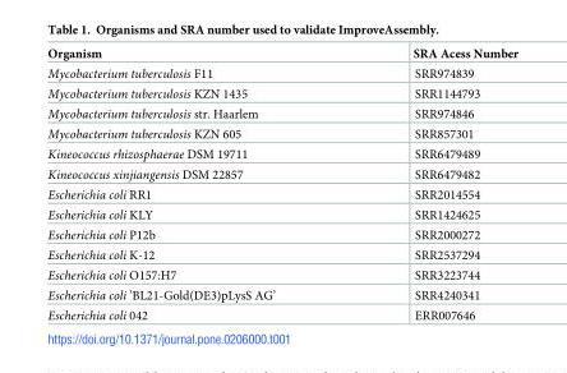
<table><thead><tr><td>Organism</td><td>SRA Acess Number</td></tr></thead><tbody><tr><td>Mycobacterium tuberculosis F11</td><td>SRR974839</td></tr><tr><td>Mycobacterium tuberculosis KZN 1435</td><td>SRR1144793</td></tr><tr><td>Mycobacterium tuberculosis str. Haarlem</td><td>SRR974846</td></tr><tr><td>Mycobacterium tuberculosis KZN 605</td><td>SRR857301</td></tr><tr><td>Kineococcus rhizosphaerae DSM 19711</td><td>SRR6479489</td></tr><tr><td>Kineococcus xinjiangensis DSM 22857</td><td>SRR6479482</td></tr><tr><td>Escherichia coli RR1</td><td>SRR2014554</td></tr><tr><td>Escherichia coli KLY</td><td>SRR1424625</td></tr><tr><td>Escherichia coli P12b</td><td>SRR2000272</td></tr><tr><td>Escherichia coli K-12</td><td>SRR2537294</td></tr><tr><td>Escherichia coli O157:H7</td><td>SRR3223744</td></tr><tr><td>Escherichia coli ’BL21-Gold(DE3)pLysS AG’</td><td>SRR4240341</td></tr><tr><td>Escherichia coli 042</td><td>ERR007646</td></tr></tbody></table>